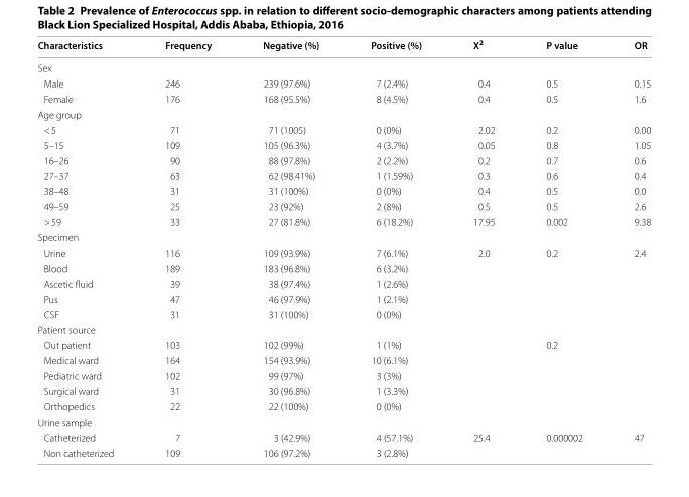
<table><thead><tr><td>Characteristics</td><td>Frequency</td><td>Negative (%)</td><td>Positive (%)</td><td>X<sup>2</sup></td><td>P value</td><td>OR</td></tr></thead><tbody><tr><td colspan="7">Sex</td></tr><tr><td>Male</td><td>246</td><td>239 (97.6%)</td><td>7 (2.4%)</td><td>0.4</td><td>0.5</td><td>0.15</td></tr><tr><td>Female</td><td>176</td><td>168 (95.5%)</td><td>8 (4.5%)</td><td>0.4</td><td>0.5</td><td>1.6</td></tr><tr><td colspan="7">Age group</td></tr><tr><td>&lt; 5</td><td>71</td><td>71 (1005)</td><td>0 (0%)</td><td>2.02</td><td>0.2</td><td>0.00</td></tr><tr><td>5–15</td><td>109</td><td>105 (96.3%)</td><td>4 (3.7%)</td><td>0.05</td><td>0.8</td><td>1.05</td></tr><tr><td>16–26</td><td>90</td><td>88 (97.8%)</td><td>2 (2.2%)</td><td>0.2</td><td>0.7</td><td>0.6</td></tr><tr><td>27–37</td><td>63</td><td>62 (98.41%)</td><td>1 (1.59%)</td><td>0.3</td><td>0.6</td><td>0.4</td></tr><tr><td>38–48</td><td>31</td><td>31 (100%)</td><td>0 (0%)</td><td>0.4</td><td>0.5</td><td>0.0</td></tr><tr><td>49–59</td><td>25</td><td>23 (92%)</td><td>2 (8%)</td><td>0.5</td><td>0.5</td><td>2.6</td></tr><tr><td>&gt; 59</td><td>33</td><td>27 (81.8%)</td><td>6 (18.2%)</td><td>17.95</td><td>0.002</td><td>9.38</td></tr><tr><td colspan="7">Specimen</td></tr><tr><td>Urine</td><td>116</td><td>109 (93.9%)</td><td>7 (6.1%)</td><td>2.0</td><td>0.2</td><td>2.4</td></tr><tr><td>Blood</td><td>189</td><td>183 (96.8%)</td><td>6 (3.2%)</td><td></td><td></td><td></td></tr><tr><td>Ascetic fluid</td><td>39</td><td>38 (97.4%)</td><td>1 (2.6%)</td><td></td><td></td><td></td></tr><tr><td>Pus</td><td>47</td><td>46 (97.9%)</td><td>1 (2.1%)</td><td></td><td></td><td></td></tr><tr><td>CSF</td><td>31</td><td>31 (100%)</td><td>0 (0%)</td><td></td><td></td><td></td></tr><tr><td colspan="7">Patient source</td></tr><tr><td>Out patient</td><td>103</td><td>102 (99%)</td><td>1 (1%)</td><td></td><td>0.2</td><td></td></tr><tr><td>Medical ward</td><td>164</td><td>154 (93.9%)</td><td>10 (6.1%)</td><td></td><td></td><td></td></tr><tr><td>Pediatric ward</td><td>102</td><td>99 (97%)</td><td>3 (3%)</td><td></td><td></td><td></td></tr><tr><td>Surgical ward</td><td>31</td><td>30 (96.8%)</td><td>1 (3.3%)</td><td></td><td></td><td></td></tr><tr><td>Orthopedics</td><td>22</td><td>22 (100%)</td><td>0 (0%)</td><td></td><td></td><td></td></tr><tr><td colspan="7">Urine sample</td></tr><tr><td>Catheterized</td><td>7</td><td>3 (42.9%)</td><td>4 (57.1%)</td><td>25.4</td><td>0.000002</td><td>47</td></tr><tr><td>Non catheterized</td><td>109</td><td>106 (97.2%)</td><td>3 (2.8%)</td><td></td><td></td><td></td></tr></tbody></table>